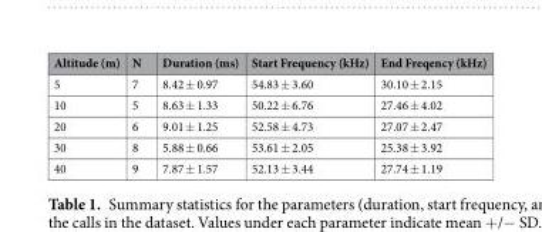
<table><thead><tr><td>Altitude (m)</td><td>N</td><td>Duration (ms)</td><td>Start Frequency (kHz)</td><td>End Freqency (kHz)</td></tr></thead><tbody><tr><td>5</td><td>7</td><td>8.42 ± 0.97</td><td>54.83 ± 3.60</td><td>30.10 ± 2.15</td></tr><tr><td>10</td><td>5</td><td>8.63 ± 1.33</td><td>50.22 ± 6.76</td><td>27.46 ± 4.02</td></tr><tr><td>20</td><td>6</td><td>9.01 ± 1.25</td><td>52.58 ± 4.73</td><td>27.07 ± 2.47</td></tr><tr><td>30</td><td>8</td><td>5.88 ± 0.66</td><td>53.61 ± 2.05</td><td>25.38 ± 3.92</td></tr><tr><td>40</td><td>9</td><td>7.87 ± 1.57</td><td>52.13 ± 3.44</td><td>27.74 ± 1.19</td></tr></tbody></table>